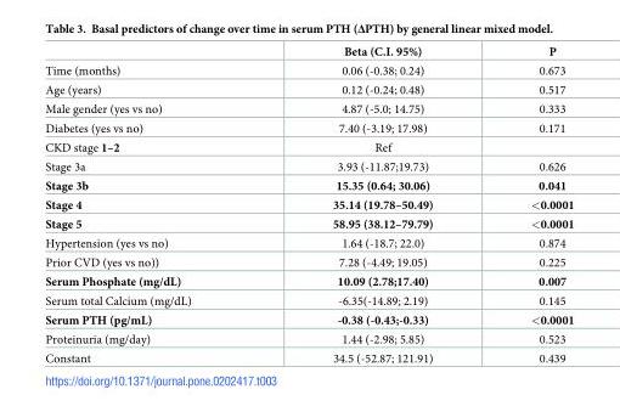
<table><thead><tr><td></td><td>Beta (C.I. 95%)</td><td>P</td></tr></thead><tbody><tr><td>Time (months)</td><td>0.06 (-0.38; 0.24)</td><td>0.673</td></tr><tr><td>Age (years)</td><td>0.12 (-0.24; 0.48)</td><td>0.517</td></tr><tr><td>Male gender (yes vs no)</td><td>4.87 (-5.0; 14.75)</td><td>0.333</td></tr><tr><td>Diabetes (yes vs no)</td><td>7.40 (-3.19; 17.98)</td><td>0.171</td></tr><tr><td>CKD stage 1–2</td><td>Ref</td><td></td></tr><tr><td>Stage 3a</td><td>3.93 (-11.87;19.73)</td><td>0.626</td></tr><tr><td>Stage 3b</td><td>15.35 (0.64; 30.06)</td><td>0.041</td></tr><tr><td>Stage 4</td><td>35.14 (19.78–50.49)</td><td>&lt;0.0001</td></tr><tr><td>Stage 5</td><td>58.95 (38.12–79.79)</td><td>&lt;0.0001</td></tr><tr><td>Hypertension (yes vs no)</td><td>1.64 (-18.7; 22.0)</td><td>0.874</td></tr><tr><td>Prior CVD (yes vs no))</td><td>7.28 (-4.49; 19.05)</td><td>0.225</td></tr><tr><td>Serum Phosphate (mg/dL)</td><td>10.09 (2.78;17.40)</td><td>0.007</td></tr><tr><td>Serum total Calcium (mg/dL)</td><td>-6.35(-14.89; 2.19)</td><td>0.145</td></tr><tr><td>Serum PTH (pg/mL)</td><td>-0.38 (-0.43;-0.33)</td><td>&lt;0.0001</td></tr><tr><td>Proteinuria (mg/day)</td><td>1.44 (-2.98; 5.85)</td><td>0.523</td></tr><tr><td>Constant</td><td>34.5 (-52.87; 121.91)</td><td>0.439</td></tr></tbody></table>